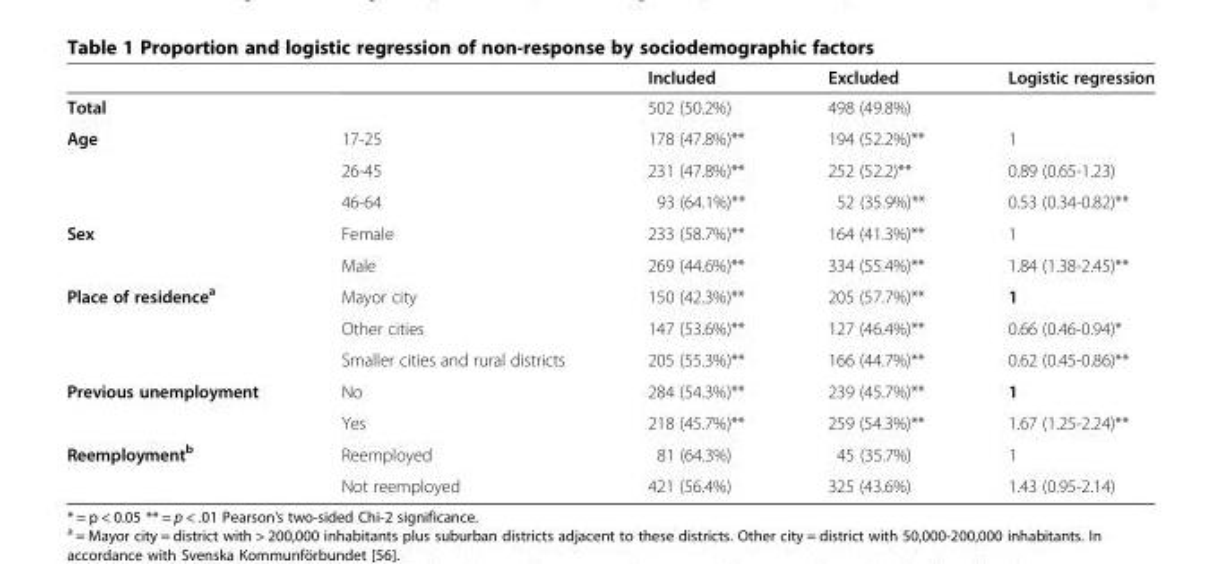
<table><thead><tr><td></td><td></td><td>Included</td><td>Excluded</td><td>Logistic regression</td></tr></thead><tbody><tr><td>Total</td><td></td><td>502 (50.2%)</td><td>498 (49.8%)</td><td></td></tr><tr><td rowspan="3">Age</td><td>17-25</td><td>178 (47.8%)**</td><td>194 (52.2%)**</td><td>1</td></tr><tr><td>26-45</td><td>231 (47.8%)**</td><td>252 (52.2)**</td><td>0.89 (0.65-1.23)</td></tr><tr><td>46-64</td><td>93 (64.1%)**</td><td>52 (35.9%)**</td><td>0.53 (0.34-0.82)**</td></tr><tr><td rowspan="2">Sex</td><td>Female</td><td>233 (58.7%)**</td><td>164 (41.3%)**</td><td>1</td></tr><tr><td>Male</td><td>269 (44.6%)**</td><td>334 (55.4%)**</td><td>1.84 (1.38-2.45)**</td></tr><tr><td rowspan="3">Place of residence<sup>a</sup></td><td>Mayor city</td><td>150 (42.3%)**</td><td>205 (57.7%)**</td><td>1</td></tr><tr><td>Other cities</td><td>147 (53.6%)**</td><td>127 (46.4%)**</td><td>0.66 (0.46-0.94)*</td></tr><tr><td>Smaller cities and rural districts</td><td>205 (55.3%)**</td><td>166 (44.7%)**</td><td>0.62 (0.45-0.86)**</td></tr><tr><td rowspan="2">Previous unemployment</td><td>No</td><td>284 (54.3%)**</td><td>239 (45.7%)**</td><td>1</td></tr><tr><td>Yes</td><td>218 (45.7%)**</td><td>259 (54.3%)**</td><td>1.67 (1.25-2.24)**</td></tr><tr><td rowspan="2">Reemployment<sup>b</sup></td><td>Reemployed</td><td>81 (64.3%)</td><td>45 (35.7%)</td><td>1</td></tr><tr><td>Not reemployed</td><td>421 (56.4%)</td><td>325 (43.6%)</td><td>1.43 (0.95-2.14)</td></tr></tbody></table>